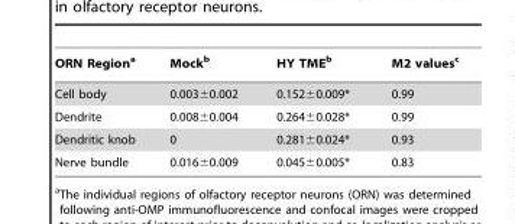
<table><thead><tr><td>ORN Region<sup>a</sup></td><td>Mock<sup>b</sup></td><td>HY TME<sup>b</sup></td><td>M2 values<sup>c</sup></td></tr></thead><tbody><tr><td>Cell body</td><td>0.003±0.002</td><td>0.152±0.009*</td><td>0.99</td></tr><tr><td>Dendrite</td><td>0.008±0.004</td><td>0.264±0.028*</td><td>0.99</td></tr><tr><td>Dendritic knob</td><td>0</td><td>0.281±0.024*</td><td>0.93</td></tr><tr><td>Nerve bundle</td><td>0.016±0.009</td><td>0.045±0.005*</td><td>0.83</td></tr></tbody></table>